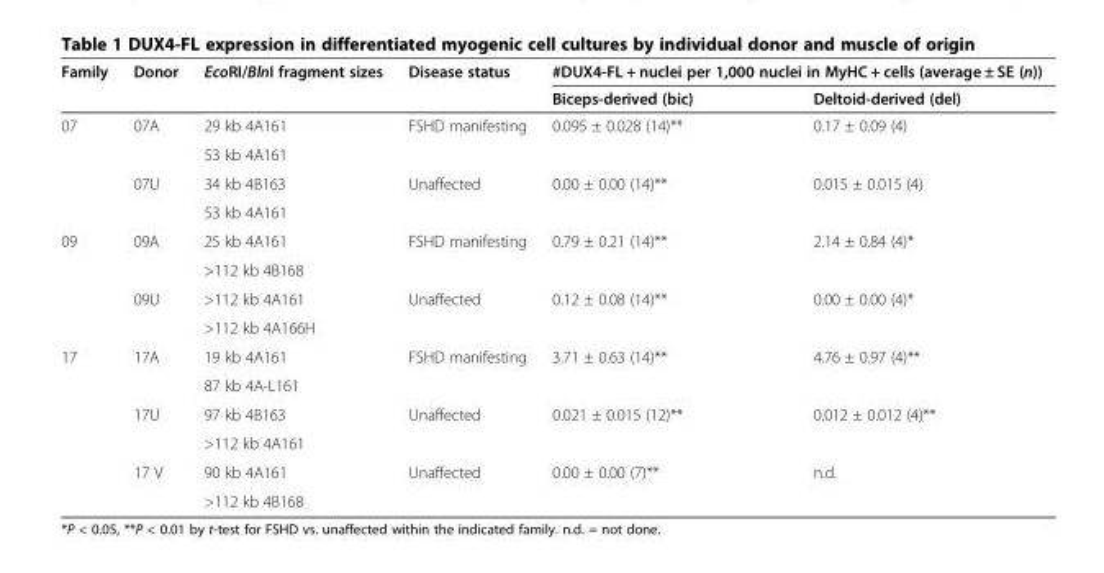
<table><thead><tr><td rowspan="2">Family</td><td rowspan="2">Donor</td><td rowspan="2">EcoRI/BlnI fragment sizes</td><td rowspan="2">Disease status</td><td colspan="2">#DUX4-FL + nuclei per 1,000 nuclei in MyHC + cells (average ± SE (n))</td></tr><tr><td>Biceps-derived (bic)</td><td>Deltoid-derived (del)</td></tr></thead><tbody><tr><td rowspan="4">07</td><td rowspan="2">07A</td><td>29 kb 4A161</td><td>FSHD manifesting</td><td>0.095 ± 0.028 (14)**</td><td>0.17 ± 0.09 (4)</td></tr><tr><td>53 kb 4A161</td><td></td><td></td><td></td></tr><tr><td rowspan="2">07U</td><td>34 kb 4B163</td><td rowspan="2">Unaffected</td><td rowspan="2">0.00 ± 0.00 (14)**</td><td rowspan="2">0.015 ± 0.015 (4)</td></tr><tr><td>53 kb 4A161</td></tr><tr><td rowspan="4">09</td><td rowspan="2">09A</td><td>25 kb 4A161</td><td>FSHD manifesting</td><td>0.79 ± 0.21 (14)**</td><td>2.14 ± 0.84 (4)*</td></tr><tr><td>&gt;112 kb 4B168</td><td></td><td></td><td></td></tr><tr><td rowspan="2">09U</td><td>&gt;112 kb 4A161</td><td rowspan="2">Unaffected</td><td rowspan="2">0.12 ± 0.08 (14)**</td><td rowspan="2">0.00 ± 0.00 (4)*</td></tr><tr><td>&gt;112 kb 4A166H</td></tr><tr><td rowspan="6">17</td><td rowspan="2">17A</td><td>19 kb 4A161</td><td>FSHD manifesting</td><td>3.71 ± 0.63 (14)**</td><td>4.76 ± 0.97 (4)**</td></tr><tr><td>87 kb 4A-L161</td><td></td><td></td><td></td></tr><tr><td rowspan="2">17U</td><td>97 kb 4B163</td><td rowspan="2">Unaffected</td><td rowspan="2">0.021 ± 0.015 (12)**</td><td rowspan="2">0.012 ± 0.012 (4)**</td></tr><tr><td>&gt;112 kb 4A161</td></tr><tr><td rowspan="2">17 V</td><td>90 kb 4A161</td><td rowspan="2">Unaffected</td><td rowspan="2">0.00 ± 0.00 (7)**</td><td rowspan="2">n.d.</td></tr><tr><td>&gt;112 kb 4B168</td></tr></tbody></table>